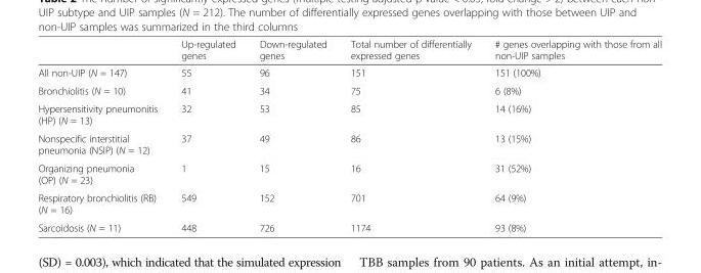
<table><thead><tr><td></td><td>Up-regulated genes</td><td>Down-regulated genes</td><td>Total number of differentially expressed genes</td><td># genes overlapping with those from all non-UIP samples</td></tr></thead><tbody><tr><td>All non-UIP (N = 147)</td><td>55</td><td>96</td><td>151</td><td>151 (100%)</td></tr><tr><td>Bronchiolitis (N = 10)</td><td>41</td><td>34</td><td>75</td><td>6 (8%)</td></tr><tr><td>Hypersensitivity pneumonitis (HP) (N = 13)</td><td>32</td><td>53</td><td>85</td><td>14 (16%)</td></tr><tr><td>Nonspecific interstitial pneumonia (NSIP) (N = 12)</td><td>37</td><td>49</td><td>86</td><td>13 (15%)</td></tr><tr><td>Organizing pneumonia (OP) (N = 23)</td><td>1</td><td>15</td><td>16</td><td>31 (52%)</td></tr><tr><td>Respiratory bronchiolitis (RB) (N = 16)</td><td>549</td><td>152</td><td>701</td><td>64 (9%)</td></tr><tr><td>Sarcoidosis (N = 11)</td><td>448</td><td>726</td><td>1174</td><td>93 (8%)</td></tr></tbody></table>